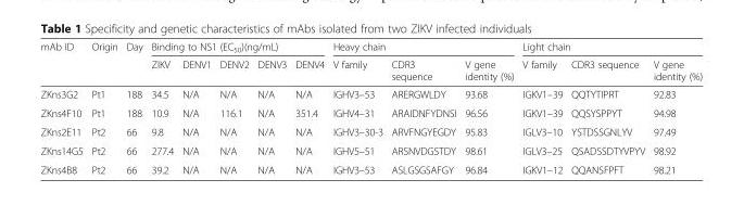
<table><thead><tr><td rowspan="2">mAb ID</td><td rowspan="2">Origin</td><td rowspan="2">Day</td><td colspan="5">Binding to NS1 (EC<sub>50</sub>)(ng/mL)</td><td colspan="3">Heavy chain</td><td colspan="3">Light chain</td></tr><tr><td>ZIKV</td><td>DENV1</td><td>DENV2</td><td>DENV3</td><td>DENV4</td><td>V family</td><td>CDR3 sequence</td><td>V gene identity (%)</td><td>V family</td><td>CDR3 sequence</td><td>V gene identity (%)</td></tr></thead><tbody><tr><td>ZKns3G2</td><td>Pt1</td><td>188</td><td>34.5</td><td>N/A</td><td>N/A</td><td>N/A</td><td>N/A</td><td>IGHV3–53</td><td>ARERGWLDY</td><td>93.68</td><td>IGKV1–39</td><td>QQTYTIPRT</td><td>92.83</td></tr><tr><td>ZKns4F10</td><td>Pt1</td><td>188</td><td>10.9</td><td>N/A</td><td>116.1</td><td>N/A</td><td>351.4</td><td>IGHV4–31</td><td>ARAIDNFYDNSI</td><td>96.56</td><td>IGKV1–39</td><td>QQSYSPPYT</td><td>94.98</td></tr><tr><td>ZKns2E11</td><td>Pt2</td><td>66</td><td>9.8</td><td>N/A</td><td>N/A</td><td>N/A</td><td>N/A</td><td>IGHV3–30-3</td><td>ARVFNGYEGDY</td><td>95.83</td><td>IGLV3–10</td><td>YSTDSSGNLYV</td><td>97.49</td></tr><tr><td>ZKns14G5</td><td>Pt2</td><td>66</td><td>277.4</td><td>N/A</td><td>N/A</td><td>N/A</td><td>N/A</td><td>IGHV5–51</td><td>ARSNVDGSTDY</td><td>98.61</td><td>IGLV3–25</td><td>QSADSSDTYVPYV</td><td>98.92</td></tr><tr><td>ZKns4B8</td><td>Pt2</td><td>66</td><td>39.2</td><td>N/A</td><td>N/A</td><td>N/A</td><td>N/A</td><td>IGHV3–53</td><td>ASLGSGSAFGY</td><td>96.84</td><td>IGKV1–12</td><td>QQANSFPFT</td><td>98.21</td></tr></tbody></table>